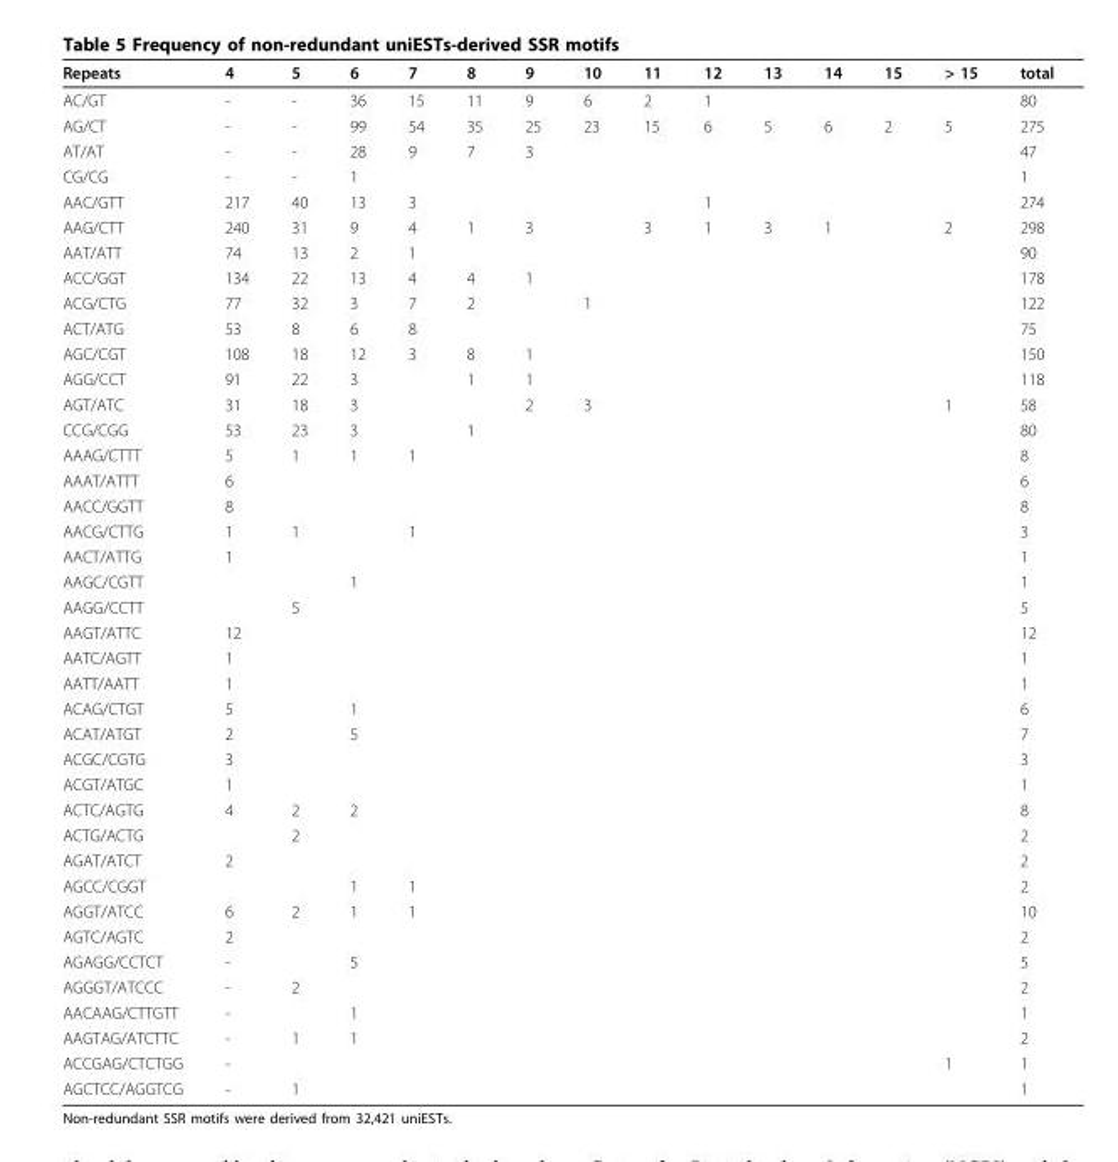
<table><thead><tr><td>Repeats</td><td>4</td><td>5</td><td>6</td><td>7</td><td>8</td><td>9</td><td>10</td><td>11</td><td>12</td><td>13</td><td>14</td><td>15</td><td>&gt; 15</td><td>total</td></tr></thead><tbody><tr><td>AC/GT</td><td>-</td><td>-</td><td>36</td><td>15</td><td>11</td><td>9</td><td>6</td><td>2</td><td>1</td><td></td><td></td><td></td><td></td><td>80</td></tr><tr><td>AG/CT</td><td>-</td><td>-</td><td>99</td><td>54</td><td>35</td><td>25</td><td>23</td><td>15</td><td>6</td><td>5</td><td>6</td><td>2</td><td>5</td><td>275</td></tr><tr><td>AT/AT</td><td>-</td><td>-</td><td>28</td><td>9</td><td>7</td><td>3</td><td></td><td></td><td></td><td></td><td></td><td></td><td></td><td>47</td></tr><tr><td>CG/CG</td><td>-</td><td>-</td><td>1</td><td></td><td></td><td></td><td></td><td></td><td></td><td></td><td></td><td></td><td></td><td>1</td></tr><tr><td>AAC/GTT</td><td>217</td><td>40</td><td>13</td><td>3</td><td></td><td></td><td></td><td></td><td>1</td><td></td><td></td><td></td><td></td><td>274</td></tr><tr><td>AAG/CTT</td><td>240</td><td>31</td><td>9</td><td>4</td><td>1</td><td>3</td><td></td><td>3</td><td>1</td><td>3</td><td>1</td><td></td><td>2</td><td>298</td></tr><tr><td>AAT/ATT</td><td>74</td><td>13</td><td>2</td><td>1</td><td></td><td></td><td></td><td></td><td></td><td></td><td></td><td></td><td></td><td>90</td></tr><tr><td>ACC/GGT</td><td>134</td><td>22</td><td>13</td><td>4</td><td>4</td><td>1</td><td></td><td></td><td></td><td></td><td></td><td></td><td></td><td>178</td></tr><tr><td>ACG/CTG</td><td>77</td><td>32</td><td>3</td><td>7</td><td>2</td><td></td><td>1</td><td></td><td></td><td></td><td></td><td></td><td></td><td>122</td></tr><tr><td>ACT/ATG</td><td>53</td><td>8</td><td>6</td><td>8</td><td></td><td></td><td></td><td></td><td></td><td></td><td></td><td></td><td></td><td>75</td></tr><tr><td>AGC/CGT</td><td>108</td><td>18</td><td>12</td><td>3</td><td>8</td><td>1</td><td></td><td></td><td></td><td></td><td></td><td></td><td></td><td>150</td></tr><tr><td>AGG/CCT</td><td>91</td><td>22</td><td>3</td><td></td><td>1</td><td>1</td><td></td><td></td><td></td><td></td><td></td><td></td><td></td><td>118</td></tr><tr><td>AGT/ATC</td><td>31</td><td>18</td><td>3</td><td></td><td></td><td>2</td><td>3</td><td></td><td></td><td></td><td></td><td></td><td>1</td><td>58</td></tr><tr><td>CCG/CGG</td><td>53</td><td>23</td><td>3</td><td></td><td>1</td><td></td><td></td><td></td><td></td><td></td><td></td><td></td><td></td><td>80</td></tr><tr><td>AAAG/CTTT</td><td>5</td><td>1</td><td>1</td><td>1</td><td></td><td></td><td></td><td></td><td></td><td></td><td></td><td></td><td></td><td>8</td></tr><tr><td>AAAT/ATTT</td><td>6</td><td></td><td></td><td></td><td></td><td></td><td></td><td></td><td></td><td></td><td></td><td></td><td></td><td>6</td></tr><tr><td>AACC/GGTT</td><td>8</td><td></td><td></td><td></td><td></td><td></td><td></td><td></td><td></td><td></td><td></td><td></td><td></td><td>8</td></tr><tr><td>AACG/CTTG</td><td>1</td><td>1</td><td></td><td>1</td><td></td><td></td><td></td><td></td><td></td><td></td><td></td><td></td><td></td><td>3</td></tr><tr><td>AACT/ATTG</td><td>1</td><td></td><td></td><td></td><td></td><td></td><td></td><td></td><td></td><td></td><td></td><td></td><td></td><td>1</td></tr><tr><td>AAGC/CGTT</td><td></td><td></td><td>1</td><td></td><td></td><td></td><td></td><td></td><td></td><td></td><td></td><td></td><td></td><td>1</td></tr><tr><td>AAGG/CCTT</td><td></td><td>5</td><td></td><td></td><td></td><td></td><td></td><td></td><td></td><td></td><td></td><td></td><td></td><td>5</td></tr><tr><td>AAGT/ATTC</td><td>12</td><td></td><td></td><td></td><td></td><td></td><td></td><td></td><td></td><td></td><td></td><td></td><td></td><td>12</td></tr><tr><td>AATC/AGTT</td><td>1</td><td></td><td></td><td></td><td></td><td></td><td></td><td></td><td></td><td></td><td></td><td></td><td></td><td>1</td></tr><tr><td>AATT/AATT</td><td>1</td><td></td><td></td><td></td><td></td><td></td><td></td><td></td><td></td><td></td><td></td><td></td><td></td><td>1</td></tr><tr><td>ACAG/CTGT</td><td>5</td><td></td><td>1</td><td></td><td></td><td></td><td></td><td></td><td></td><td></td><td></td><td></td><td></td><td>6</td></tr><tr><td>ACAT/ATGT</td><td>2</td><td></td><td>5</td><td></td><td></td><td></td><td></td><td></td><td></td><td></td><td></td><td></td><td></td><td>7</td></tr><tr><td>ACGC/CGTG</td><td>3</td><td></td><td></td><td></td><td></td><td></td><td></td><td></td><td></td><td></td><td></td><td></td><td></td><td>3</td></tr><tr><td>ACGT/ATGC</td><td>1</td><td></td><td></td><td></td><td></td><td></td><td></td><td></td><td></td><td></td><td></td><td></td><td></td><td>1</td></tr><tr><td>ACTC/AGTG</td><td>4</td><td>2</td><td>2</td><td></td><td></td><td></td><td></td><td></td><td></td><td></td><td></td><td></td><td></td><td>8</td></tr><tr><td>ACTG/ACTG</td><td></td><td>2</td><td></td><td></td><td></td><td></td><td></td><td></td><td></td><td></td><td></td><td></td><td></td><td>2</td></tr><tr><td>AGAT/ATCT</td><td>2</td><td></td><td></td><td></td><td></td><td></td><td></td><td></td><td></td><td></td><td></td><td></td><td></td><td>2</td></tr><tr><td>AGCC/CGGT</td><td></td><td></td><td>1</td><td>1</td><td></td><td></td><td></td><td></td><td></td><td></td><td></td><td></td><td></td><td>2</td></tr><tr><td>AGGT/ATCC</td><td>6</td><td>2</td><td>1</td><td>1</td><td></td><td></td><td></td><td></td><td></td><td></td><td></td><td></td><td></td><td>10</td></tr><tr><td>AGTC/AGTC</td><td>2</td><td></td><td></td><td></td><td></td><td></td><td></td><td></td><td></td><td></td><td></td><td></td><td></td><td>2</td></tr><tr><td>AGAGG/CCTCT</td><td>-</td><td></td><td>5</td><td></td><td></td><td></td><td></td><td></td><td></td><td></td><td></td><td></td><td></td><td>5</td></tr><tr><td>AGGGT/ATCCC</td><td>-</td><td>2</td><td></td><td></td><td></td><td></td><td></td><td></td><td></td><td></td><td></td><td></td><td></td><td>2</td></tr><tr><td>AACAAG/CTTGTT</td><td>-</td><td></td><td>1</td><td></td><td></td><td></td><td></td><td></td><td></td><td></td><td></td><td></td><td></td><td>1</td></tr><tr><td>AAGTAG/ATCTTC</td><td>-</td><td>1</td><td>1</td><td></td><td></td><td></td><td></td><td></td><td></td><td></td><td></td><td></td><td></td><td>2</td></tr><tr><td>ACCGAG/CTCTGG</td><td>-</td><td></td><td></td><td></td><td></td><td></td><td></td><td></td><td></td><td></td><td></td><td></td><td>1</td><td>1</td></tr><tr><td>AGCTCC/AGGTCG</td><td>-</td><td>1</td><td></td><td></td><td></td><td></td><td></td><td></td><td></td><td></td><td></td><td></td><td></td><td>1</td></tr></tbody></table>